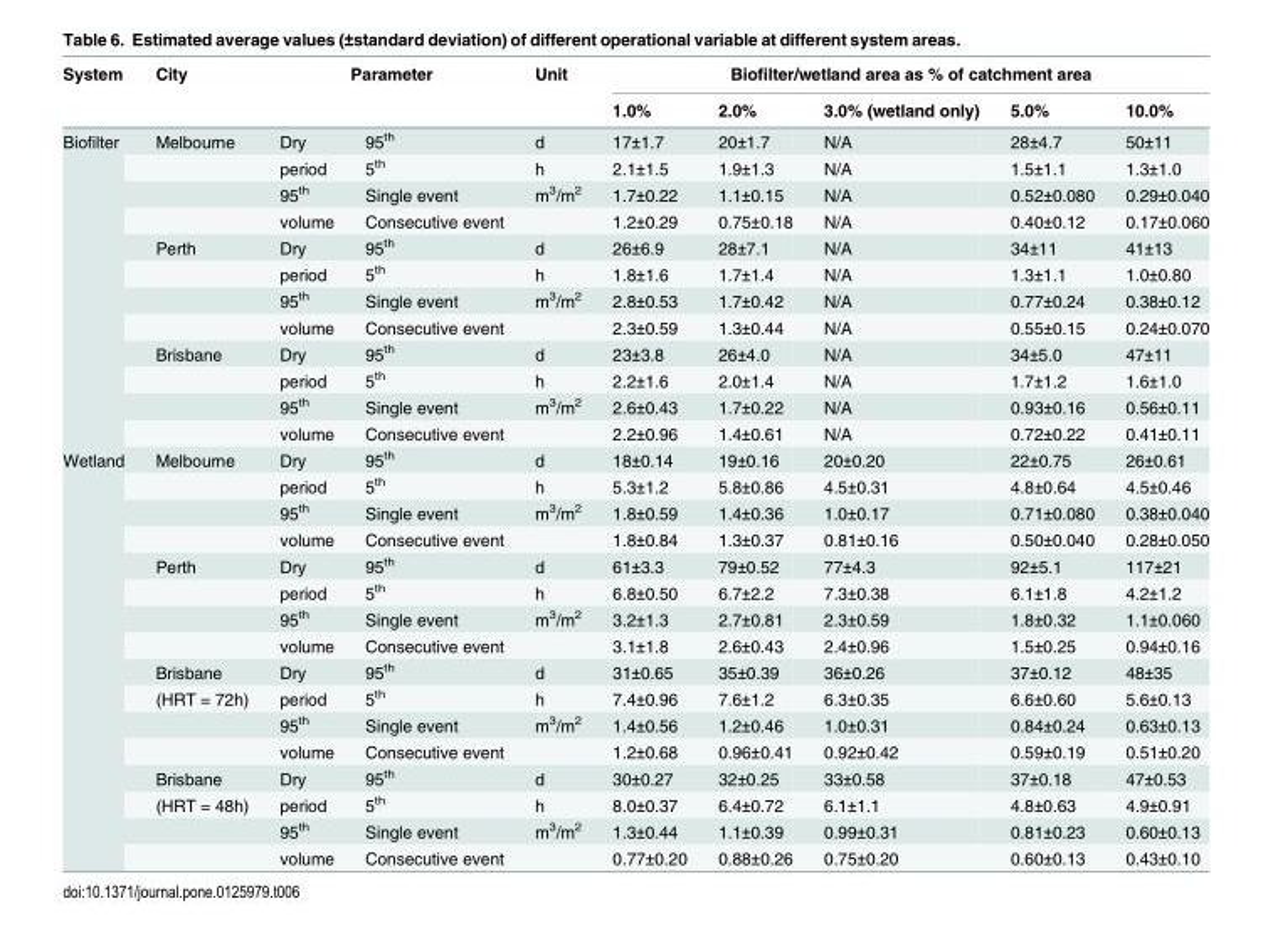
<table><thead><tr><td rowspan="2">System</td><td rowspan="2">City</td><td colspan="2">Parameter</td><td rowspan="2">Unit</td><td colspan="5">Biofilter/wetland area as % of catchment area</td></tr><tr><td></td><td></td><td>1.0%</td><td>2.0%</td><td>3.0% (wetland only)</td><td>5.0%</td><td>10.0%</td></tr></thead><tbody><tr><td rowspan="12">Biofilter</td><td>Melbourne</td><td>Dry</td><td>95<sup>th</sup></td><td>d</td><td>17±1.7</td><td>20±1.7</td><td>N/A</td><td>28±4.7</td><td>50±11</td></tr><tr><td></td><td>period</td><td>5<sup>th</sup></td><td>h</td><td>2.1±1.5</td><td>1.9±1.3</td><td>N/A</td><td>1.5±1.1</td><td>1.3±1.0</td></tr><tr><td></td><td>95<sup>th</sup></td><td>Single event</td><td>m<sup>3</sup>/m<sup>2</sup></td><td>1.7±0.22</td><td>1.1±0.15</td><td>N/A</td><td>0.52±0.080</td><td>0.29±0.040</td></tr><tr><td></td><td>volume</td><td>Consecutive event</td><td></td><td>1.2±0.29</td><td>0.75±0.18</td><td>N/A</td><td>0.40±0.12</td><td>0.17±0.060</td></tr><tr><td>Perth</td><td>Dry</td><td>95<sup>th</sup></td><td>d</td><td>26±6.9</td><td>28±7.1</td><td>N/A</td><td>34±11</td><td>41±13</td></tr><tr><td></td><td>period</td><td>5<sup>th</sup></td><td>h</td><td>1.8±1.6</td><td>1.7±1.4</td><td>N/A</td><td>1.3±1.1</td><td>1.0±0.80</td></tr><tr><td></td><td>95<sup>th</sup></td><td>Single event</td><td>m<sup>3</sup>/m<sup>2</sup></td><td>2.8±0.53</td><td>1.7±0.42</td><td>N/A</td><td>0.77±0.24</td><td>0.38±0.12</td></tr><tr><td></td><td>volume</td><td>Consecutive event</td><td></td><td>2.3±0.59</td><td>1.3±0.44</td><td>N/A</td><td>0.55±0.15</td><td>0.24±0.070</td></tr><tr><td>Brisbane</td><td>Dry</td><td>95<sup>th</sup></td><td>d</td><td>23±3.8</td><td>26±4.0</td><td>N/A</td><td>34±5.0</td><td>47±11</td></tr><tr><td></td><td>period</td><td>5<sup>th</sup></td><td>h</td><td>2.2±1.6</td><td>2.0±1.4</td><td>N/A</td><td>1.7±1.2</td><td>1.6±1.0</td></tr><tr><td></td><td>95<sup>th</sup></td><td>Single event</td><td>m<sup>3</sup>/m<sup>2</sup></td><td>2.6±0.43</td><td>1.7±0.22</td><td>N/A</td><td>0.93±0.16</td><td>0.56±0.11</td></tr><tr><td></td><td>volume</td><td>Consecutive event</td><td></td><td>2.2±0.96</td><td>1.4±0.61</td><td>N/A</td><td>0.72±0.22</td><td>0.41±0.11</td></tr><tr><td rowspan="16">Wetland</td><td>Melbourne</td><td>Dry</td><td>95<sup>th</sup></td><td>d</td><td>18±0.14</td><td>19±0.16</td><td>20±0.20</td><td>22±0.75</td><td>26±0.61</td></tr><tr><td></td><td>period</td><td>5<sup>th</sup></td><td>h</td><td>5.3±1.2</td><td>5.8±0.86</td><td>4.5±0.31</td><td>4.8±0.64</td><td>4.5±0.46</td></tr><tr><td></td><td>95<sup>th</sup></td><td>Single event</td><td>m<sup>3</sup>/m<sup>2</sup></td><td>1.8±0.59</td><td>1.4±0.36</td><td>1.0±0.17</td><td>0.71±0.080</td><td>0.38±0.040</td></tr><tr><td></td><td>volume</td><td>Consecutive event</td><td></td><td>1.8±0.84</td><td>1.3±0.37</td><td>0.81±0.16</td><td>0.50±0.040</td><td>0.28±0.050</td></tr><tr><td>Perth</td><td>Dry</td><td>95<sup>th</sup></td><td>d</td><td>61±3.3</td><td>79±0.52</td><td>77±4.3</td><td>92±5.1</td><td>117±21</td></tr><tr><td></td><td>period</td><td>5<sup>th</sup></td><td>h</td><td>6.8±0.50</td><td>6.7±2.2</td><td>7.3±0.38</td><td>6.1±1.8</td><td>4.2±1.2</td></tr><tr><td></td><td>95<sup>th</sup></td><td>Single event</td><td>m<sup>3</sup>/m<sup>2</sup></td><td>3.2±1.3</td><td>2.7±0.81</td><td>2.3±0.59</td><td>1.8±0.32</td><td>1.1±0.060</td></tr><tr><td></td><td>volume</td><td>Consecutive event</td><td></td><td>3.1±1.8</td><td>2.6±0.43</td><td>2.4±0.96</td><td>1.5±0.25</td><td>0.94±0.16</td></tr><tr><td>Brisbane</td><td>Dry</td><td>95<sup>th</sup></td><td>d</td><td>31±0.65</td><td>35±0.39</td><td>36±0.26</td><td>37±0.12</td><td>48±35</td></tr><tr><td>(HRT = 72h)</td><td>period</td><td>5<sup>th</sup></td><td>h</td><td>7.4±0.96</td><td>7.6±1.2</td><td>6.3±0.35</td><td>6.6±0.60</td><td>5.6±0.13</td></tr><tr><td></td><td>95<sup>th</sup></td><td>Single event</td><td>m<sup>3</sup>/m<sup>2</sup></td><td>1.4±0.56</td><td>1.2±0.46</td><td>1.0±0.31</td><td>0.84±0.24</td><td>0.63±0.13</td></tr><tr><td></td><td>volume</td><td>Consecutive event</td><td></td><td>1.2±0.68</td><td>0.96±0.41</td><td>0.92±0.42</td><td>0.59±0.19</td><td>0.51±0.20</td></tr><tr><td>Brisbane</td><td>Dry</td><td>95<sup>th</sup></td><td>d</td><td>30±0.27</td><td>32±0.25</td><td>33±0.58</td><td>37±0.18</td><td>47±0.53</td></tr><tr><td>(HRT = 48h)</td><td>period</td><td>5<sup>th</sup></td><td>h</td><td>8.0±0.37</td><td>6.4±0.72</td><td>6.1±1.1</td><td>4.8±0.63</td><td>4.9±0.91</td></tr><tr><td></td><td>95<sup>th</sup></td><td>Single event</td><td>m<sup>3</sup>/m<sup>2</sup></td><td>1.3±0.44</td><td>1.1±0.39</td><td>0.99±0.31</td><td>0.81±0.23</td><td>0.60±0.13</td></tr><tr><td></td><td>volume</td><td>Consecutive event</td><td></td><td>0.77±0.20</td><td>0.88±0.26</td><td>0.75±0.20</td><td>0.60±0.13</td><td>0.43±0.10</td></tr></tbody></table>